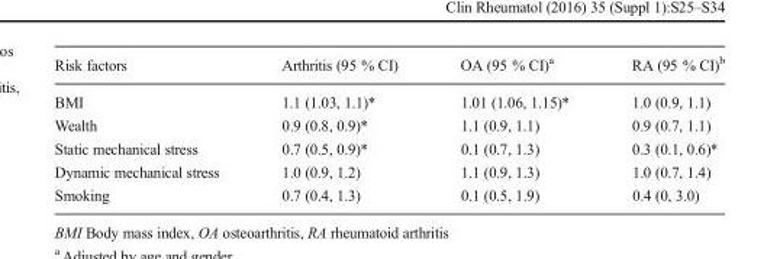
<table><thead><tr><td>Risk factors</td><td>Arthritis (95 % CI)</td><td>OA (95 % CI)<sup>a</sup></td><td>RA (95 % CI)<sup>b</sup></td></tr></thead><tbody><tr><td>BMI</td><td>1.1 (1.03, 1.1)*</td><td>1.01 (1.06, 1.15)*</td><td>1.0 (0.9, 1.1)</td></tr><tr><td>Wealth</td><td>0.9 (0.8, 0.9)*</td><td>1.1 (0.9, 1.1)</td><td>0.9 (0.7, 1.1)</td></tr><tr><td>Static mechanical stress</td><td>0.7 (0.5, 0.9)*</td><td>0.1 (0.7, 1.3)</td><td>0.3 (0.1, 0.6)*</td></tr><tr><td>Dynamic mechanical stress</td><td>1.0 (0.9, 1.2)</td><td>1.1 (0.9, 1.3)</td><td>1.0 (0.7, 1.4)</td></tr><tr><td>Smoking</td><td>0.7 (0.4, 1.3)</td><td>0.1 (0.5, 1.9)</td><td>0.4 (0, 3.0)</td></tr></tbody></table>